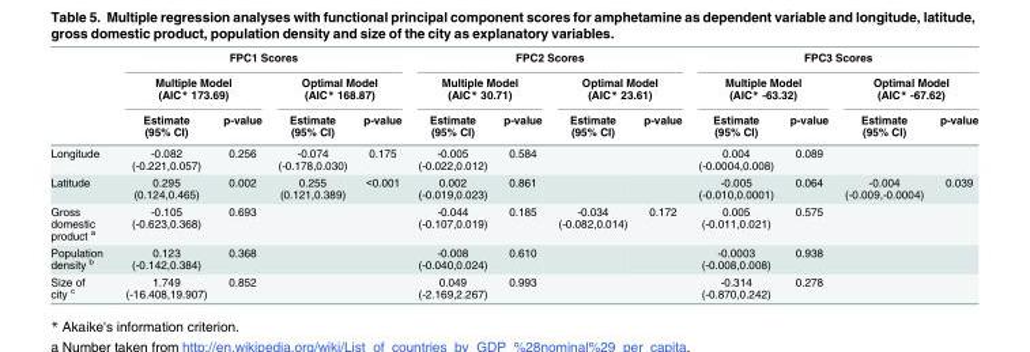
<table><thead><tr><td rowspan="3"></td><td colspan="4">FPC1 Scores</td><td colspan="4">FPC2 Scores</td><td colspan="4">FPC3 Scores</td></tr><tr><td colspan="2">Multiple Model (AIC* 173.69)</td><td colspan="2">Optimal Model (AIC* 168.87)</td><td colspan="2">Multiple Model (AIC* 30.71)</td><td colspan="2">Optimal Model (AIC* 23.61)</td><td colspan="2">Multiple Model (AIC* -63.32)</td><td colspan="2">Optimal Model (AIC* -67.62)</td></tr><tr><td>Estimate (95% CI)</td><td>p-value</td><td>Estimate (95% CI)</td><td>p-value</td><td>Estimate (95% CI)</td><td>p-value</td><td>Estimate (95% CI)</td><td>p-value</td><td>Estimate (95% CI)</td><td>p-value</td><td>Estimate (95% CI)</td><td>p-value</td></tr></thead><tbody><tr><td>Longitude</td><td>-0.082 (-0.221,0.057)</td><td>0.256</td><td>-0.074 (-0.178,0.030)</td><td>0.175</td><td>-0.005 (-0.022,0.012)</td><td>0.584</td><td></td><td></td><td>0.004 (-0.0004,0.008)</td><td>0.089</td><td></td><td></td></tr><tr><td>Latitude</td><td>0.295 (0.124,0.465)</td><td>0.002</td><td>0.255 (0.121,0.389)</td><td>&lt;0.001</td><td>0.002 (-0.019,0.023)</td><td>0.861</td><td></td><td></td><td>-0.005 (-0.010,0.0001)</td><td>0.064</td><td>-0.004 (-0.009,-0.0004)</td><td>0.039</td></tr><tr><td>Gross domestic product <sup>a</sup></td><td>-0.105 (-0.623,0.368)</td><td>0.693</td><td></td><td></td><td>-0.044 (-0.107,0.019)</td><td>0.185</td><td>-0.034 (-0.082,0.014)</td><td>0.172</td><td>0.005 (-0.011,0.021)</td><td>0.575</td><td></td><td></td></tr><tr><td>Population density <sup>b</sup></td><td>0.123 (-0.142,0.384)</td><td>0.368</td><td></td><td></td><td>-0.008 (-0.040,0.024)</td><td>0.610</td><td></td><td></td><td>-0.0003 (-0.008,0.008)</td><td>0.938</td><td></td><td></td></tr><tr><td>Size of city <sup>c</sup></td><td>1.749 (-16.408,19.907)</td><td>0.852</td><td></td><td></td><td>0.049 (-2.169,2.267)</td><td>0.993</td><td></td><td></td><td>-0.314 (-0.870,0.242)</td><td>0.278</td><td></td><td></td></tr></tbody></table>